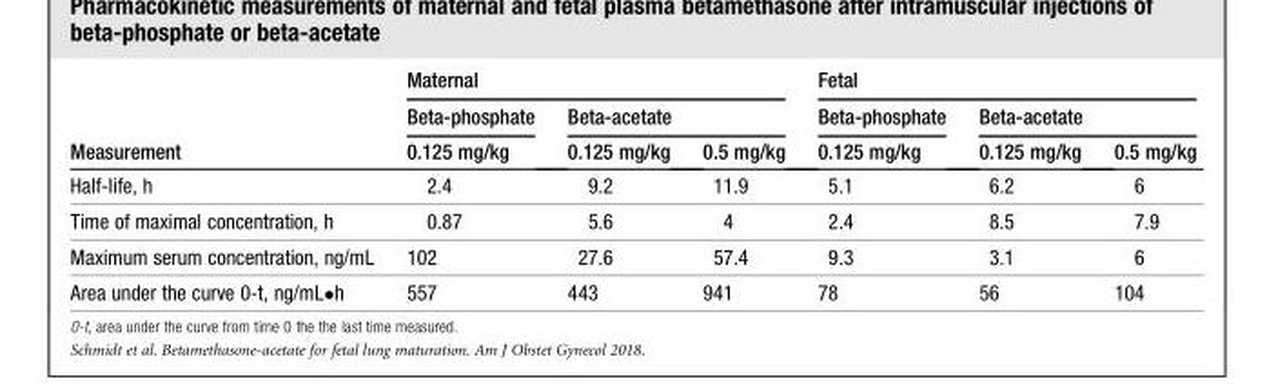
<table><thead><tr><td rowspan="3">Measurement</td><td colspan="3">Maternal</td><td colspan="3">Fetal</td></tr><tr><td rowspan="2">Beta-phosphate 0.125 mg/kg</td><td colspan="2">Beta-acetate</td><td rowspan="2">Beta-phosphate 0.125 mg/kg</td><td colspan="2">Beta-acetate</td></tr><tr><td>0.125 mg/kg</td><td>0.5 mg/kg</td><td>0.125 mg/kg</td><td>0.5 mg/kg</td></tr></thead><tbody><tr><td>Half-life, h</td><td>2.4</td><td>9.2</td><td>11.9</td><td>5.1</td><td>6.2</td><td>6</td></tr><tr><td>Time of maximal concentration, h</td><td>0.87</td><td>5.6</td><td>4</td><td>2.4</td><td>8.5</td><td>7.9</td></tr><tr><td>Maximum serum concentration, ng/mL</td><td>102</td><td>27.6</td><td>57.4</td><td>9.3</td><td>3.1</td><td>6</td></tr><tr><td>Area under the curve 0-t, ng/mL•h</td><td>557</td><td>443</td><td>941</td><td>78</td><td>56</td><td>104</td></tr></tbody></table>